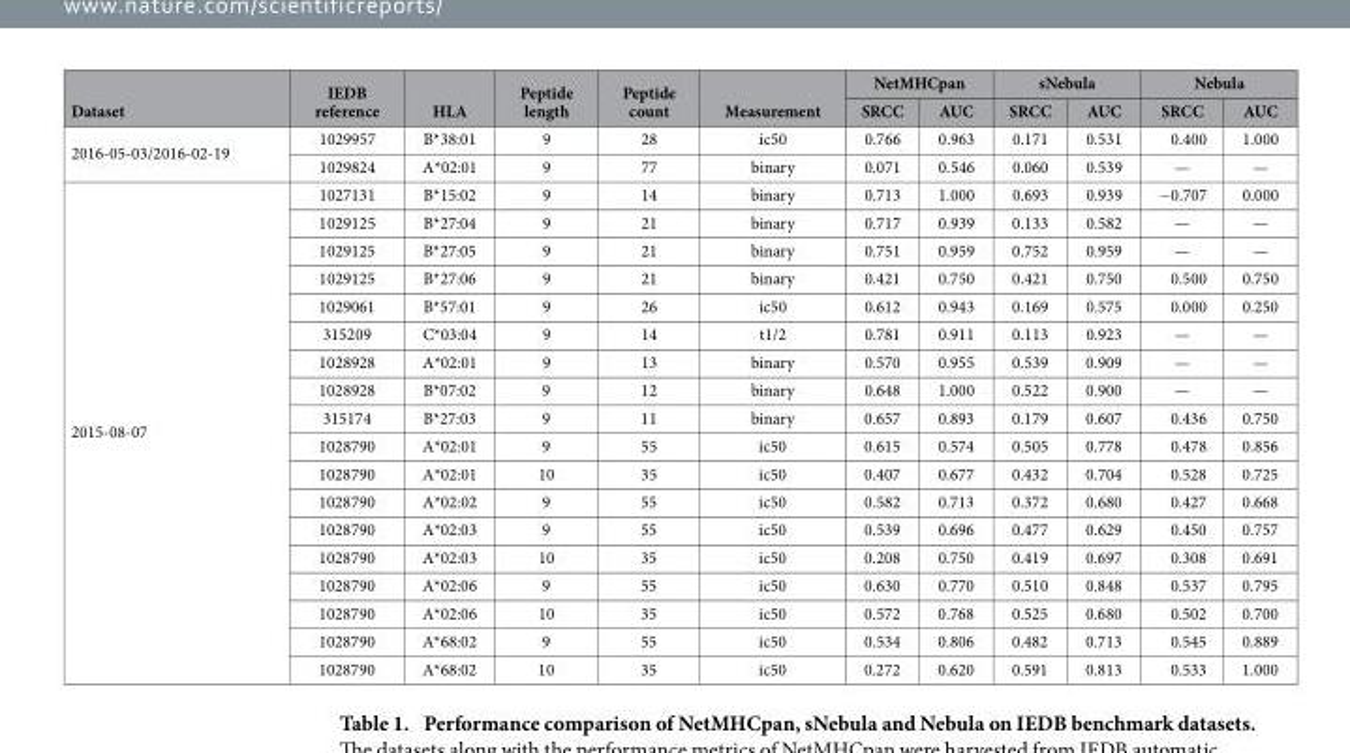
<table><thead><tr><td rowspan="2">Dataset</td><td rowspan="2">IEDB reference</td><td rowspan="2">HLA</td><td rowspan="2">Peptide length</td><td rowspan="2">Peptide count</td><td rowspan="2">Measurement</td><td colspan="2">NetMHCpan</td><td colspan="2">sNebula</td><td colspan="2">Nebula</td></tr><tr><td>SRCC</td><td>AUC</td><td>SRCC</td><td>AUC</td><td>SRCC</td><td>AUC</td></tr></thead><tbody><tr><td rowspan="2">2016-05-03/2016-02-19</td><td>1029957</td><td>B*38:01</td><td>9</td><td>28</td><td>ic50</td><td>0.766</td><td>0.963</td><td>0.171</td><td>0.531</td><td>0.400</td><td>1.000</td></tr><tr><td>1029824</td><td>A*02:01</td><td>9</td><td>77</td><td>binary</td><td>0.071</td><td>0.546</td><td>0.060</td><td>0.539</td><td>—</td><td>—</td></tr><tr><td rowspan="18">2015-08-07</td><td>1027131</td><td>B*15:02</td><td>9</td><td>14</td><td>binary</td><td>0.713</td><td>1.000</td><td>0.693</td><td>0.939</td><td>− 0.707</td><td>0.000</td></tr><tr><td>1029125</td><td>B*27:04</td><td>9</td><td>21</td><td>binary</td><td>0.717</td><td>0.939</td><td>0.133</td><td>0.582</td><td>—</td><td>—</td></tr><tr><td>1029125</td><td>B*27:05</td><td>9</td><td>21</td><td>binary</td><td>0.751</td><td>0.959</td><td>0.752</td><td>0.959</td><td>—</td><td>—</td></tr><tr><td>1029125</td><td>B*27:06</td><td>9</td><td>21</td><td>binary</td><td>0.421</td><td>0.750</td><td>0.421</td><td>0.750</td><td>0.500</td><td>0.750</td></tr><tr><td>1029061</td><td>B*57:01</td><td>9</td><td>26</td><td>ic50</td><td>0.612</td><td>0.943</td><td>0.169</td><td>0.575</td><td>0.000</td><td>0.250</td></tr><tr><td>315209</td><td>C*03:04</td><td>9</td><td>14</td><td>t1/2</td><td>0.781</td><td>0.911</td><td>0.113</td><td>0.923</td><td>—</td><td>—</td></tr><tr><td>1028928</td><td>A*02:01</td><td>9</td><td>13</td><td>binary</td><td>0.570</td><td>0.955</td><td>0.539</td><td>0.909</td><td>—</td><td>—</td></tr><tr><td>1028928</td><td>B*07:02</td><td>9</td><td>12</td><td>binary</td><td>0.648</td><td>1.000</td><td>0.522</td><td>0.900</td><td>—</td><td>—</td></tr><tr><td>315174</td><td>B*27:03</td><td>9</td><td>11</td><td>binary</td><td>0.657</td><td>0.893</td><td>0.179</td><td>0.607</td><td>0.436</td><td>0.750</td></tr><tr><td>1028790</td><td>A*02:01</td><td>9</td><td>55</td><td>ic50</td><td>0.615</td><td>0.574</td><td>0.505</td><td>0.778</td><td>0.478</td><td>0.856</td></tr><tr><td>1028790</td><td>A*02:01</td><td>10</td><td>35</td><td>ic50</td><td>0.407</td><td>0.677</td><td>0.432</td><td>0.704</td><td>0.528</td><td>0.725</td></tr><tr><td>1028790</td><td>A*02:02</td><td>9</td><td>55</td><td>ic50</td><td>0.582</td><td>0.713</td><td>0.372</td><td>0.680</td><td>0.427</td><td>0.668</td></tr><tr><td>1028790</td><td>A*02:03</td><td>9</td><td>55</td><td>ic50</td><td>0.539</td><td>0.696</td><td>0.477</td><td>0.629</td><td>0.450</td><td>0.757</td></tr><tr><td>1028790</td><td>A*02:03</td><td>10</td><td>35</td><td>ic50</td><td>0.208</td><td>0.750</td><td>0.419</td><td>0.697</td><td>0.308</td><td>0.691</td></tr><tr><td>1028790</td><td>A*02:06</td><td>9</td><td>55</td><td>ic50</td><td>0.630</td><td>0.770</td><td>0.510</td><td>0.848</td><td>0.537</td><td>0.795</td></tr><tr><td>1028790</td><td>A*02:06</td><td>10</td><td>35</td><td>ic50</td><td>0.572</td><td>0.768</td><td>0.525</td><td>0.680</td><td>0.502</td><td>0.700</td></tr><tr><td>1028790</td><td>A*68:02</td><td>9</td><td>55</td><td>ic50</td><td>0.534</td><td>0.806</td><td>0.482</td><td>0.713</td><td>0.545</td><td>0.889</td></tr><tr><td>1028790</td><td>A*68:02</td><td>10</td><td>35</td><td>ic50</td><td>0.272</td><td>0.620</td><td>0.591</td><td>0.813</td><td>0.533</td><td>1.000</td></tr></tbody></table>